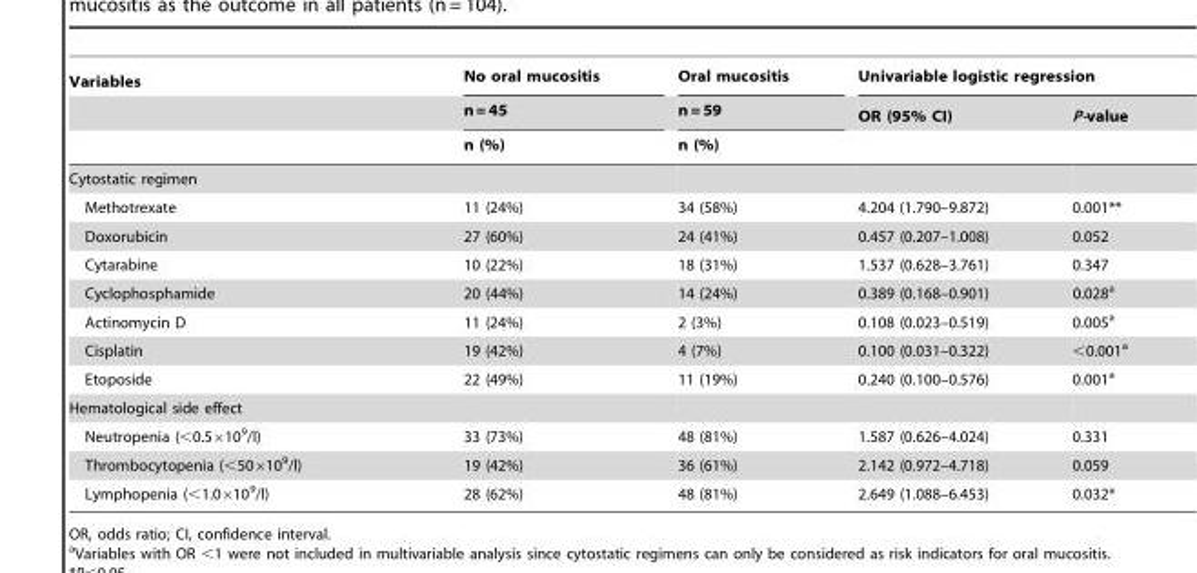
<table><thead><tr><td rowspan="3">Variables</td><td rowspan="3">No oral mucositis n = 45 n (%)</td><td rowspan="3">Oral mucositis n = 59 n (%)</td><td colspan="2">Univariable logistic regression</td></tr><tr><td rowspan="2">OR (95% CI)</td><td rowspan="2">P-value</td></tr><tr></tr></thead><tbody><tr><td colspan="5">Cytostatic regimen</td></tr><tr><td>Methotrexate</td><td>11 (24%)</td><td>34 (58%)</td><td>4.204 (1.790–9.872)</td><td>0.001**</td></tr><tr><td>Doxorubicin</td><td>27 (60%)</td><td>24 (41%)</td><td>0.457 (0.207–1.008)</td><td>0.052</td></tr><tr><td>Cytarabine</td><td>10 (22%)</td><td>18 (31%)</td><td>1.537 (0.628–3.761)</td><td>0.347</td></tr><tr><td>Cyclophosphamide</td><td>20 (44%)</td><td>14 (24%)</td><td>0.389 (0.168–0.901)</td><td>0.028<sup>a</sup></td></tr><tr><td>Actinomycin D</td><td>11 (24%)</td><td>2 (3%)</td><td>0.108 (0.023–0.519)</td><td>0.005<sup>a</sup></td></tr><tr><td>Cisplatin</td><td>19 (42%)</td><td>4 (7%)</td><td>0.100 (0.031–0.322)</td><td>&lt;0.001<sup>a</sup></td></tr><tr><td>Etoposide</td><td>22 (49%)</td><td>11 (19%)</td><td>0.240 (0.100–0.576)</td><td>0.001<sup>a</sup></td></tr><tr><td colspan="5">Hematological side effect</td></tr><tr><td>Neutropenia (&lt;0.5×10<sup>9</sup>/l)</td><td>33 (73%)</td><td>48 (81%)</td><td>1.587 (0.626–4.024)</td><td>0.331</td></tr><tr><td>Thrombocytopenia (&lt;50×10<sup>9</sup>/l)</td><td>19 (42%)</td><td>36 (61%)</td><td>2.142 (0.972–4.718)</td><td>0.059</td></tr><tr><td>Lymphopenia (&lt;1.0×10<sup>9</sup>/l)</td><td>28 (62%)</td><td>48 (81%)</td><td>2.649 (1.088–6.453)</td><td>0.032*</td></tr></tbody></table>